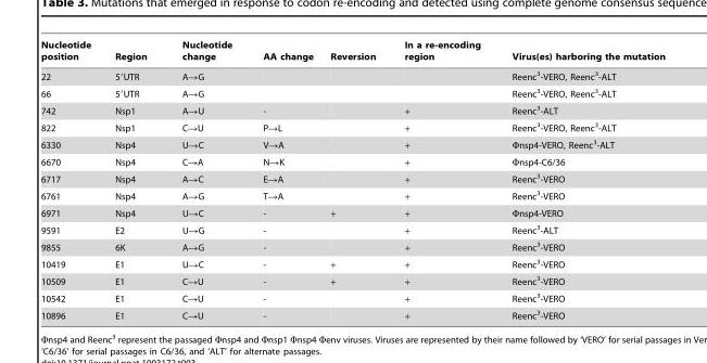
<table><thead><tr><td>Nucleotide position</td><td>Region</td><td>Nucleotide change</td><td>AA change</td><td>Reversion</td><td>In a re-encoding region</td><td>Virus(es) harboring the mutation</td></tr></thead><tbody><tr><td>22</td><td>5′UTR</td><td>A→G</td><td></td><td></td><td></td><td>Reenc<sup>3</sup>-VERO, Reenc<sup>3</sup>-ALT</td></tr><tr><td>66</td><td>5′UTR</td><td>A→G</td><td></td><td></td><td></td><td>Reenc<sup>3</sup>-VERO, Reenc<sup>3</sup>-ALT</td></tr><tr><td>742</td><td>Nsp1</td><td>A→U</td><td>-</td><td></td><td>+</td><td>Reenc<sup>3</sup>-ALT</td></tr><tr><td>822</td><td>Nsp1</td><td>C→U</td><td>P→L</td><td></td><td>+</td><td>Reenc<sup>3</sup>-VERO, Reenc<sup>3</sup>-ALT</td></tr><tr><td>6330</td><td>Nsp4</td><td>U→C</td><td>V→A</td><td></td><td>+</td><td>Φnsp4-VERO, Reenc<sup>3</sup>-ALT</td></tr><tr><td>6670</td><td>Nsp4</td><td>C→A</td><td>N→K</td><td></td><td>+</td><td>Φnsp4-C6/36</td></tr><tr><td>6717</td><td>Nsp4</td><td>A→C</td><td>E→A</td><td></td><td>+</td><td>Reenc<sup>3</sup>-VERO</td></tr><tr><td>6761</td><td>Nsp4</td><td>A→G</td><td>T→A</td><td></td><td>+</td><td>Reenc<sup>3</sup>-VERO</td></tr><tr><td>6971</td><td>Nsp4</td><td>U→C</td><td>-</td><td>+</td><td>+</td><td>Φnsp4-VERO</td></tr><tr><td>9591</td><td>E2</td><td>U→G</td><td>-</td><td></td><td>+</td><td>Reenc<sup>3</sup>-ALT</td></tr><tr><td>9855</td><td>6K</td><td>A→G</td><td>-</td><td></td><td>+</td><td>Reenc<sup>3</sup>-VERO</td></tr><tr><td>10419</td><td>E1</td><td>U→C</td><td>-</td><td>+</td><td>+</td><td>Reenc<sup>3</sup>-VERO</td></tr><tr><td>10509</td><td>E1</td><td>C→U</td><td>-</td><td>+</td><td>+</td><td>Reenc<sup>3</sup>-VERO</td></tr><tr><td>10542</td><td>E1</td><td>C→U</td><td>-</td><td></td><td>+</td><td>Reenc<sup>3</sup>-VERO</td></tr><tr><td>10896</td><td>E1</td><td>C→U</td><td>-</td><td></td><td>+</td><td>Reenc<sup>3</sup>-VERO</td></tr></tbody></table>